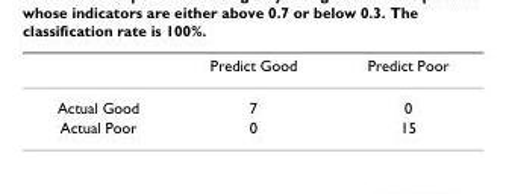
<table><thead><tr><td></td><td>Predict Good</td><td>Predict Poor</td></tr></thead><tbody><tr><td>Actual Good</td><td>7</td><td>0</td></tr><tr><td>Actual Poor</td><td>0</td><td>15</td></tr></tbody></table>